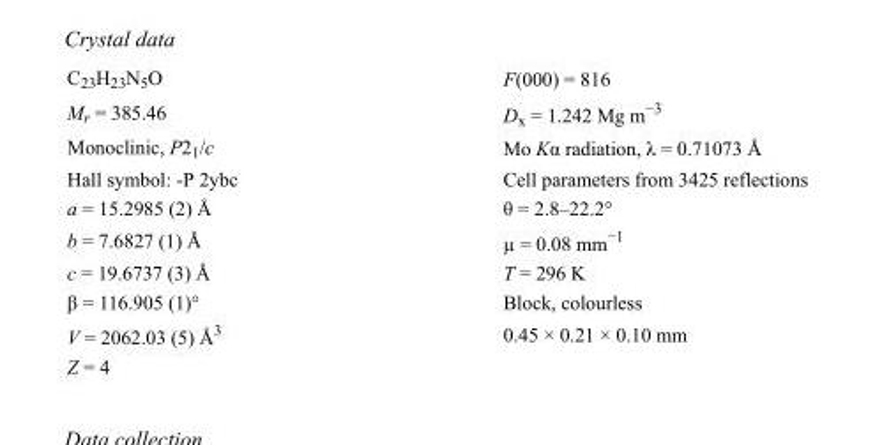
<table><tbody><tr><td>C<sub>23</sub>H<sub>23</sub>N<sub>5</sub>O</td><td>F(000) = 816</td></tr><tr><td>M<sub>r</sub> = 385.46</td><td>D<sub>x</sub> = 1.242 Mg m<sup>−3</sup></td></tr><tr><td>Monoclinic, P2<sub>1</sub>/c</td><td>Mo Kα radiation, λ = 0.71073 Å</td></tr><tr><td>Hall symbol: -P 2ybc</td><td>Cell parameters from 3425 reflections</td></tr><tr><td>a = 15.2985 (2) Å</td><td>θ = 2.8–22.2°</td></tr><tr><td>b = 7.6827 (1) Å</td><td>µ = 0.08 mm<sup>−1</sup></td></tr><tr><td>c = 19.6737 (3) Å</td><td>T = 296 K</td></tr><tr><td>β = 116.905 (1)°</td><td>Block, colourless</td></tr><tr><td>V = 2062.03 (5) Å<sup>3</sup></td><td>0.45 × 0.21 × 0.10 mm</td></tr><tr><td>Z = 4</td><td></td></tr></tbody></table>